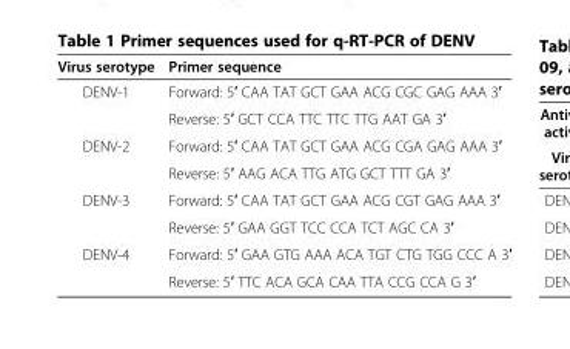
<table><thead><tr><td>Virus serotype</td><td>Primer sequence</td></tr></thead><tbody><tr><td rowspan="2">DENV-1</td><td>Forward: 5′ CAA TAT GCT GAA ACG CGC GAG AAA 3′</td></tr><tr><td>Reverse: 5′ GCT CCA TTC TTC TTG AAT GA 3′</td></tr><tr><td rowspan="2">DENV-2</td><td>Forward: 5′ CAA TAT GCT GAA ACG CGA GAG AAA 3′</td></tr><tr><td>Reverse: 5′ AAG ACA TTG ATG GCT TTT GA 3′</td></tr><tr><td rowspan="2">DENV-3</td><td>Forward: 5′ CAA TAT GCT GAA ACG CGT GAG AAA 3′</td></tr><tr><td>Reverse: 5′ GAA GGT TCC CCA TCT AGC CA 3′</td></tr><tr><td rowspan="2">DENV-4</td><td>Forward: 5′ GAA GTG AAA ACA TGT CTG TGG CCC A 3′</td></tr><tr><td>Reverse: 5′ TTC ACA GCA CAA TTA CCG CCA G 3′</td></tr></tbody></table>